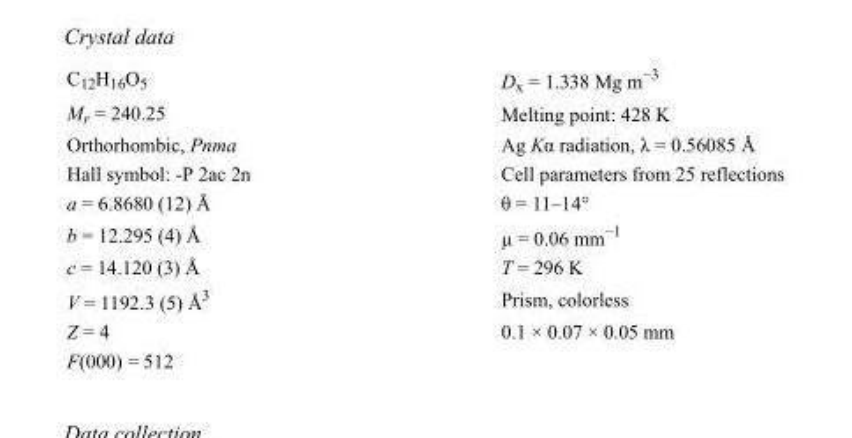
<table><tbody><tr><td>C<sub>12</sub>H<sub>16</sub>O<sub>5</sub></td><td>D<sub>x</sub> = 1.338 Mg m<sup>−3</sup></td></tr><tr><td>M<sub>r</sub> = 240.25</td><td>Melting point: 428 K</td></tr><tr><td>Orthorhombic, Pnma</td><td>Ag Kα radiation, λ = 0.56085 Å</td></tr><tr><td>Hall symbol: -P 2ac 2n</td><td>Cell parameters from 25 reflections</td></tr><tr><td>a = 6.8680 (12) Å</td><td>θ = 11–14°</td></tr><tr><td>b = 12.295 (4) Å</td><td>µ = 0.06 mm<sup>−1</sup></td></tr><tr><td>c = 14.120 (3) Å</td><td>T = 296 K</td></tr><tr><td>V = 1192.3 (5) Å<sup>3</sup></td><td>Prism, colorless</td></tr><tr><td>Z = 4</td><td>0.1 × 0.07 × 0.05 mm</td></tr><tr><td>F(000) = 512</td><td></td></tr></tbody></table>